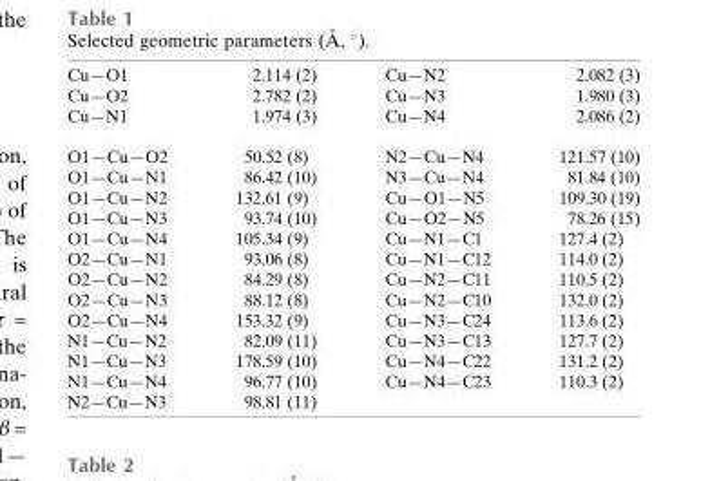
<table><tbody><tr><td>Cu—O1</td><td>2.114 (2)</td><td>Cu—N2</td><td>2.082 (3)</td></tr><tr><td>Cu—O2</td><td>2.782 (2)</td><td>Cu—N3</td><td>1.980 (3)</td></tr><tr><td>Cu—N1</td><td>1.974 (3)</td><td>Cu—N4</td><td>2.086 (2)</td></tr><tr><td>O1—Cu—O2</td><td>50.52 (8)</td><td>N2—Cu—N4</td><td>121.57 (10)</td></tr><tr><td>O1—Cu—N1</td><td>86.42 (10)</td><td>N3—Cu—N4</td><td>81.84 (10)</td></tr><tr><td>O1—Cu—N2</td><td>132.61 (9)</td><td>Cu—O1—N5</td><td>109.30 (19)</td></tr><tr><td>O1—Cu—N3</td><td>93.74 (10)</td><td>Cu—O2—N5</td><td>78.26 (15)</td></tr><tr><td>O1—Cu—N4</td><td>105.34 (9)</td><td>Cu—N1—C1</td><td>127.4 (2)</td></tr><tr><td>O2—Cu—N1</td><td>93.06 (8)</td><td>Cu—N1—C12</td><td>114.0 (2)</td></tr><tr><td>O2—Cu—N2</td><td>84.29 (8)</td><td>Cu—N2—C11</td><td>110.5 (2)</td></tr><tr><td>O2—Cu—N3</td><td>88.12 (8)</td><td>Cu—N2—C10</td><td>132.0 (2)</td></tr><tr><td>O2—Cu—N4</td><td>153.32 (9)</td><td>Cu—N3—C24</td><td>113.6 (2)</td></tr><tr><td>N1—Cu—N2</td><td>82.09 (11)</td><td>Cu—N3—C13</td><td>127.7 (2)</td></tr><tr><td>N1—Cu—N3</td><td>178.59 (10)</td><td>Cu—N4—C22</td><td>131.2 (2)</td></tr><tr><td>N1—Cu—N4</td><td>96.77 (10)</td><td>Cu—N4—C23</td><td>110.3 (2)</td></tr><tr><td>N2—Cu—N3</td><td>98.81 (11)</td><td></td><td></td></tr></tbody></table>